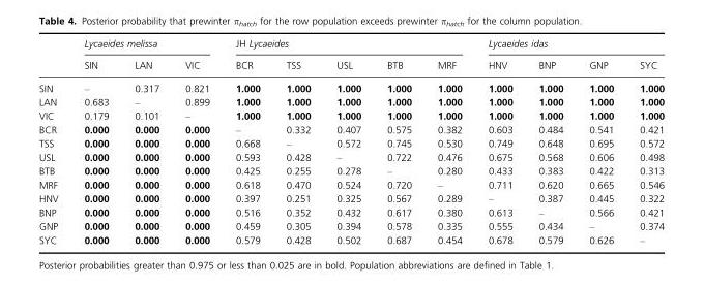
<table><thead><tr><td rowspan="2"></td><td colspan="3">Lycaeides melissa</td><td colspan="5">JH Lycaeides</td><td colspan="4">Lycaeides idas</td></tr><tr><td>SIN</td><td>LAN</td><td>VIC</td><td>BCR</td><td>TSS</td><td>USL</td><td>BTB</td><td>MRF</td><td>HNV</td><td>BNP</td><td>GNP</td><td>SYC</td></tr></thead><tbody><tr><td>SIN</td><td>–</td><td>0.317</td><td>0.821</td><td>1.000</td><td>1.000</td><td>1.000</td><td>1.000</td><td>1.000</td><td>1.000</td><td>1.000</td><td>1.000</td><td>1.000</td></tr><tr><td>LAN</td><td>0.683</td><td>–</td><td>0.899</td><td>1.000</td><td>1.000</td><td>1.000</td><td>1.000</td><td>1.000</td><td>1.000</td><td>1.000</td><td>1.000</td><td>1.000</td></tr><tr><td>VIC</td><td>0.179</td><td>0.101</td><td>–</td><td>1.000</td><td>1.000</td><td>1.000</td><td>1.000</td><td>1.000</td><td>1.000</td><td>1.000</td><td>1.000</td><td>1.000</td></tr><tr><td>BCR</td><td>0.000</td><td>0.000</td><td>0.000</td><td>–</td><td>0.332</td><td>0.407</td><td>0.575</td><td>0.382</td><td>0.603</td><td>0.484</td><td>0.541</td><td>0.421</td></tr><tr><td>TSS</td><td>0.000</td><td>0.000</td><td>0.000</td><td>0.668</td><td>–</td><td>0.572</td><td>0.745</td><td>0.530</td><td>0.749</td><td>0.648</td><td>0.695</td><td>0.572</td></tr><tr><td>USL</td><td>0.000</td><td>0.000</td><td>0.000</td><td>0.593</td><td>0.428</td><td>–</td><td>0.722</td><td>0.476</td><td>0.675</td><td>0.568</td><td>0.606</td><td>0.498</td></tr><tr><td>BTB</td><td>0.000</td><td>0.000</td><td>0.000</td><td>0.425</td><td>0.255</td><td>0.278</td><td>–</td><td>0.280</td><td>0.433</td><td>0.383</td><td>0.422</td><td>0.313</td></tr><tr><td>MRF</td><td>0.000</td><td>0.000</td><td>0.000</td><td>0.618</td><td>0.470</td><td>0.524</td><td>0.720</td><td>–</td><td>0.711</td><td>0.620</td><td>0.665</td><td>0.546</td></tr><tr><td>HNV</td><td>0.000</td><td>0.000</td><td>0.000</td><td>0.397</td><td>0.251</td><td>0.325</td><td>0.567</td><td>0.289</td><td>–</td><td>0.387</td><td>0.445</td><td>0.322</td></tr><tr><td>BNP</td><td>0.000</td><td>0.000</td><td>0.000</td><td>0.516</td><td>0.352</td><td>0.432</td><td>0.617</td><td>0.380</td><td>0.613</td><td>–</td><td>0.566</td><td>0.421</td></tr><tr><td>GNP</td><td>0.000</td><td>0.000</td><td>0.000</td><td>0.459</td><td>0.305</td><td>0.394</td><td>0.578</td><td>0.335</td><td>0.555</td><td>0.434</td><td>–</td><td>0.374</td></tr><tr><td>SYC</td><td>0.000</td><td>0.000</td><td>0.000</td><td>0.579</td><td>0.428</td><td>0.502</td><td>0.687</td><td>0.454</td><td>0.678</td><td>0.579</td><td>0.626</td><td>–</td></tr></tbody></table>